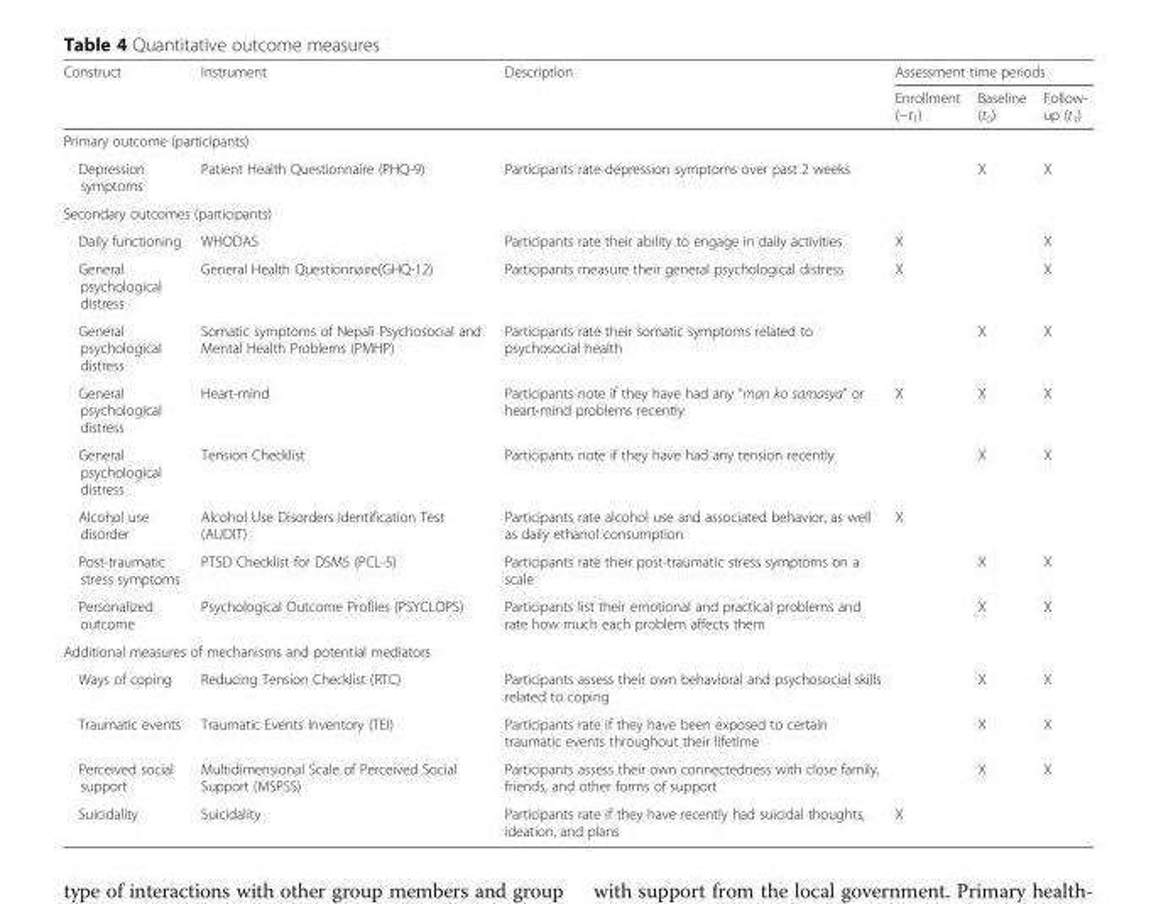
<table><thead><tr><td rowspan="2">Construct</td><td rowspan="2">Instrument</td><td rowspan="2">Description</td><td colspan="3">Assessment time periods</td></tr><tr><td>Enrollment (−t<sub>1</sub>)</td><td>Baseline (t<sub>0</sub>)</td><td>Follow- up (t<sub>1</sub>)</td></tr></thead><tbody><tr><td colspan="6">Primary outcome (participants)</td></tr><tr><td>Depression symptoms</td><td>Patient Health Questionnaire (PHQ-9)</td><td>Participants rate depression symptoms over past 2 weeks</td><td></td><td>X</td><td>X</td></tr><tr><td colspan="6">Secondary outcomes (participants)</td></tr><tr><td>Daily functioning</td><td>WHODAS</td><td>Participants rate their ability to engage in daily activities</td><td>X</td><td></td><td>X</td></tr><tr><td>General psychological distress</td><td>General Health Questionnaire(GHQ-12)</td><td>Participants measure their general psychological distress</td><td>X</td><td></td><td>X</td></tr><tr><td>General psychological distress</td><td>Somatic symptoms of Nepali Psychosocial and Mental Health Problems (PMHP)</td><td>Participants rate their somatic symptoms related to psychosocial health</td><td></td><td>X</td><td>X</td></tr><tr><td>General psychological distress</td><td>Heart-mind</td><td>Participants note if they have had any “man ko samasya” or heart-mind problems recently</td><td>X</td><td>X</td><td>X</td></tr><tr><td>General psychological distress</td><td>Tension Checklist</td><td>Participants note if they have had any tension recently</td><td></td><td>X</td><td>X</td></tr><tr><td>Alcohol use disorder</td><td>Alcohol Use Disorders Identification Test (AUDIT)</td><td>Participants rate alcohol use and associated behavior, as well as daily ethanol consumption</td><td>X</td><td></td><td></td></tr><tr><td>Post-traumatic stress symptoms</td><td>PTSD Checklist for DSM5 (PCL-5)</td><td>Participants rate their post-traumatic stress symptoms on a scale</td><td></td><td>X</td><td>X</td></tr><tr><td>Personalized outcome</td><td>Psychological Outcome Profiles (PSYCLOPS)</td><td>Participants list their emotional and practical problems and rate how much each problem affects them</td><td></td><td>X</td><td>X</td></tr><tr><td colspan="6">Additional measures of mechanisms and potential mediators</td></tr><tr><td>Ways of coping</td><td>Reducing Tension Checklist (RTC)</td><td>Participants assess their own behavioral and psychosocial skills related to coping</td><td></td><td>X</td><td>X</td></tr><tr><td>Traumatic events</td><td>Traumatic Events Inventory (TEI)</td><td>Participants rate if they have been exposed to certain traumatic events throughout their lifetime</td><td></td><td>X</td><td>X</td></tr><tr><td>Perceived social support</td><td>Multidimensional Scale of Perceived Social Support (MSPSS)</td><td>Participants assess their own connectedness with close family, friends, and other forms of support</td><td></td><td>X</td><td>X</td></tr><tr><td>Suicidality</td><td>Suicidality</td><td>Participants rate if they have recently had suicidal thoughts, ideation, and plans</td><td>X</td><td></td><td></td></tr></tbody></table>